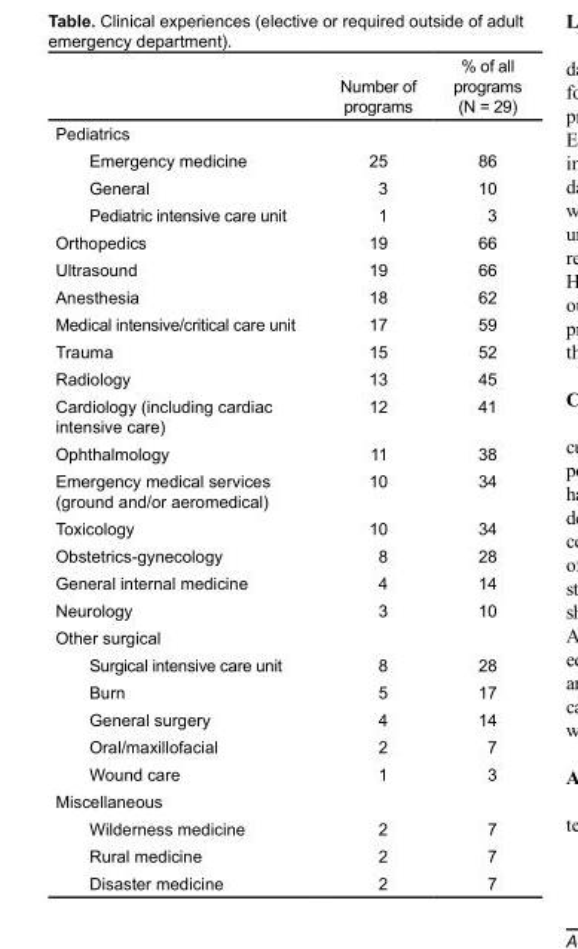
<table><thead><tr><td></td><td>Number of programs</td><td>% of all programs (N = 29)</td></tr></thead><tbody><tr><td colspan="3">Pediatrics</td></tr><tr><td>Emergency medicine</td><td>25</td><td>86</td></tr><tr><td>General</td><td>3</td><td>10</td></tr><tr><td>Pediatric intensive care unit</td><td>1</td><td>3</td></tr><tr><td>Orthopedics</td><td>19</td><td>66</td></tr><tr><td>Ultrasound</td><td>19</td><td>66</td></tr><tr><td>Anesthesia</td><td>18</td><td>62</td></tr><tr><td>Medical intensive/critical care unit</td><td>17</td><td>59</td></tr><tr><td>Trauma</td><td>15</td><td>52</td></tr><tr><td>Radiology</td><td>13</td><td>45</td></tr><tr><td>Cardiology (including cardiac intensive care)</td><td>12</td><td>41</td></tr><tr><td>Ophthalmology</td><td>11</td><td>38</td></tr><tr><td>Emergency medical services (ground and/or aeromedical)</td><td>10</td><td>34</td></tr><tr><td>Toxicology</td><td>10</td><td>34</td></tr><tr><td>Obstetrics-gynecology</td><td>8</td><td>28</td></tr><tr><td>General internal medicine</td><td>4</td><td>14</td></tr><tr><td>Neurology</td><td>3</td><td>10</td></tr><tr><td colspan="3">Other surgical</td></tr><tr><td>Surgical intensive care unit</td><td>8</td><td>28</td></tr><tr><td>Burn</td><td>5</td><td>17</td></tr><tr><td>General surgery</td><td>4</td><td>14</td></tr><tr><td>Oral/maxillofacial</td><td>2</td><td>7</td></tr><tr><td>Wound care</td><td>1</td><td>3</td></tr><tr><td colspan="3">Miscellaneous</td></tr><tr><td>Wilderness medicine</td><td>2</td><td>7</td></tr><tr><td>Rural medicine</td><td>2</td><td>7</td></tr><tr><td>Disaster medicine</td><td>2</td><td>7</td></tr></tbody></table>